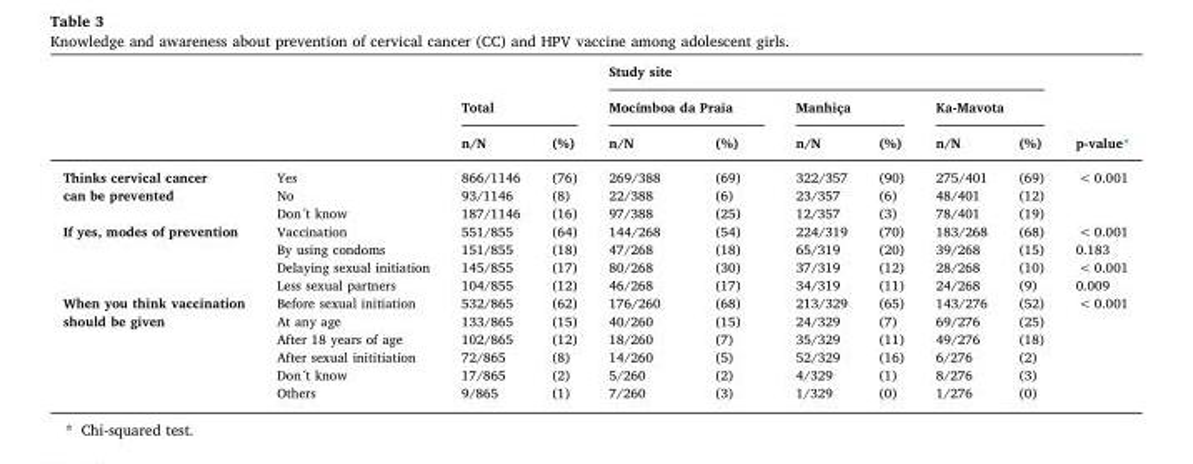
<table><thead><tr><td rowspan="3"></td><td rowspan="3"></td><td></td><td></td><td colspan="6">Study site</td><td rowspan="3">p-value*</td></tr><tr><td colspan="2">Total</td><td colspan="2">Mocímboa da Praia</td><td colspan="2">Manhiça</td><td colspan="2">Ka-Mavota</td></tr><tr><td>n/N</td><td>(%)</td><td>n/N</td><td>(%)</td><td>n/N</td><td>(%)</td><td>n/N</td><td>(%)</td></tr></thead><tbody><tr><td>Thinks cervical cancer</td><td>Yes</td><td>866/1146</td><td>(76)</td><td>269/388</td><td>(69)</td><td>322/357</td><td>(90)</td><td>275/401</td><td>(69)</td><td>&lt; 0.001</td></tr><tr><td rowspan="2">can be prevented</td><td>No</td><td>93/1146</td><td>(8)</td><td>22/388</td><td>(6)</td><td>23/357</td><td>(6)</td><td>48/401</td><td>(12)</td><td></td></tr><tr><td>Don´t know</td><td>187/1146</td><td>(16)</td><td>97/388</td><td>(25)</td><td>12/357</td><td>(3)</td><td>78/401</td><td>(19)</td><td></td></tr><tr><td rowspan="4">If yes, modes of prevention</td><td>Vaccination</td><td>551/855</td><td>(64)</td><td>144/268</td><td>(54)</td><td>224/319</td><td>(70)</td><td>183/268</td><td>(68)</td><td>&lt; 0.001</td></tr><tr><td>By using condoms</td><td>151/855</td><td>(18)</td><td>47/268</td><td>(18)</td><td>65/319</td><td>(20)</td><td>39/268</td><td>(15)</td><td>0.183</td></tr><tr><td>Delaying sexual initiation</td><td>145/855</td><td>(17)</td><td>80/268</td><td>(30)</td><td>37/319</td><td>(12)</td><td>28/268</td><td>(10)</td><td>&lt; 0.001</td></tr><tr><td>Less sexual partners</td><td>104/855</td><td>(12)</td><td>46/268</td><td>(17)</td><td>34/319</td><td>(11)</td><td>24/268</td><td>(9)</td><td>0.009</td></tr><tr><td>When you think vaccination</td><td>Before sexual initiation</td><td>532/865</td><td>(62)</td><td>176/260</td><td>(68)</td><td>213/329</td><td>(65)</td><td>143/276</td><td>(52)</td><td>&lt; 0.001</td></tr><tr><td rowspan="5">should be given</td><td>At any age</td><td>133/865</td><td>(15)</td><td>40/260</td><td>(15)</td><td>24/329</td><td>(7)</td><td>69/276</td><td>(25)</td><td></td></tr><tr><td>After 18 years of age</td><td>102/865</td><td>(12)</td><td>18/260</td><td>(7)</td><td>35/329</td><td>(11)</td><td>49/276</td><td>(18)</td><td></td></tr><tr><td>After sexual inititiation</td><td>72/865</td><td>(8)</td><td>14/260</td><td>(5)</td><td>52/329</td><td>(16)</td><td>6/276</td><td>(2)</td><td></td></tr><tr><td>Don´t know</td><td>17/865</td><td>(2)</td><td>5/260</td><td>(2)</td><td>4/329</td><td>(1)</td><td>8/276</td><td>(3)</td><td></td></tr><tr><td>Others</td><td>9/865</td><td>(1)</td><td>7/260</td><td>(3)</td><td>1/329</td><td>(0)</td><td>1/276</td><td>(0)</td><td></td></tr></tbody></table>